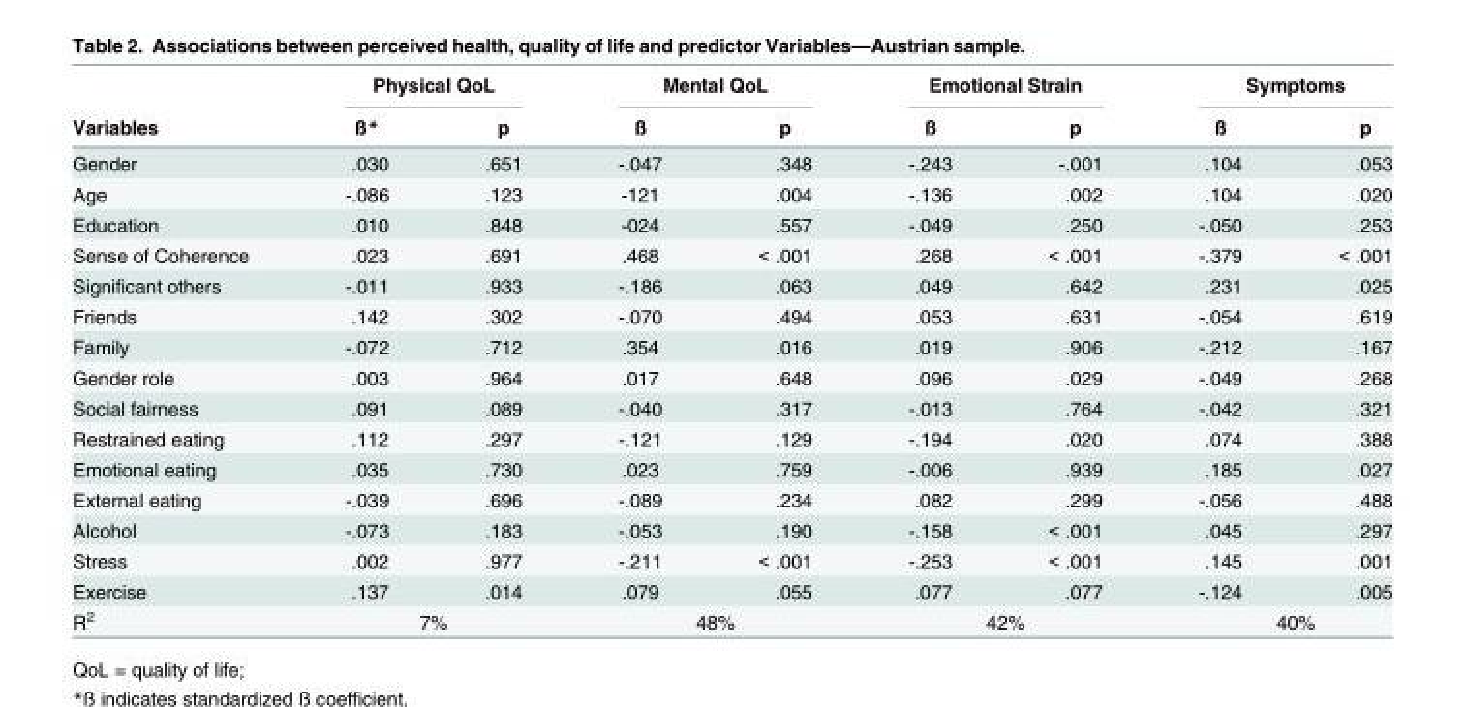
<table><thead><tr><td rowspan="2">Variables</td><td colspan="2">Physical QoL</td><td colspan="2">Mental QoL</td><td colspan="2">Emotional Strain</td><td colspan="2">Symptoms</td></tr><tr><td>ß*</td><td>p</td><td>ß</td><td>p</td><td>ß</td><td>p</td><td>ß</td><td>p</td></tr></thead><tbody><tr><td>Gender</td><td>.030</td><td>.651</td><td>-.047</td><td>.348</td><td>-.243</td><td>-.001</td><td>.104</td><td>.053</td></tr><tr><td>Age</td><td>-.086</td><td>.123</td><td>-121</td><td>.004</td><td>-.136</td><td>.002</td><td>.104</td><td>.020</td></tr><tr><td>Education</td><td>.010</td><td>.848</td><td>-024</td><td>.557</td><td>-.049</td><td>.250</td><td>-.050</td><td>.253</td></tr><tr><td>Sense of Coherence</td><td>.023</td><td>.691</td><td>.468</td><td>&lt; .001</td><td>.268</td><td>&lt; .001</td><td>-.379</td><td>&lt; .001</td></tr><tr><td>Significant others</td><td>-.011</td><td>.933</td><td>-.186</td><td>.063</td><td>.049</td><td>.642</td><td>.231</td><td>.025</td></tr><tr><td>Friends</td><td>.142</td><td>.302</td><td>-.070</td><td>.494</td><td>.053</td><td>.631</td><td>-.054</td><td>.619</td></tr><tr><td>Family</td><td>-.072</td><td>.712</td><td>.354</td><td>.016</td><td>.019</td><td>.906</td><td>-.212</td><td>.167</td></tr><tr><td>Gender role</td><td>.003</td><td>.964</td><td>.017</td><td>.648</td><td>.096</td><td>.029</td><td>-.049</td><td>.268</td></tr><tr><td>Social fairness</td><td>.091</td><td>.089</td><td>-.040</td><td>.317</td><td>-.013</td><td>.764</td><td>-.042</td><td>.321</td></tr><tr><td>Restrained eating</td><td>.112</td><td>.297</td><td>-.121</td><td>.129</td><td>-.194</td><td>.020</td><td>.074</td><td>.388</td></tr><tr><td>Emotional eating</td><td>.035</td><td>.730</td><td>.023</td><td>.759</td><td>-.006</td><td>.939</td><td>.185</td><td>.027</td></tr><tr><td>External eating</td><td>-.039</td><td>.696</td><td>-.089</td><td>.234</td><td>.082</td><td>.299</td><td>-.056</td><td>.488</td></tr><tr><td>Alcohol</td><td>-.073</td><td>.183</td><td>-.053</td><td>.190</td><td>-.158</td><td>&lt; .001</td><td>.045</td><td>.297</td></tr><tr><td>Stress</td><td>.002</td><td>.977</td><td>-.211</td><td>&lt; .001</td><td>-.253</td><td>&lt; .001</td><td>.145</td><td>.001</td></tr><tr><td>Exercise</td><td>.137</td><td>.014</td><td>.079</td><td>.055</td><td>.077</td><td>.077</td><td>-.124</td><td>.005</td></tr><tr><td>R<sup>2</sup></td><td colspan="2">7%</td><td colspan="2">48%</td><td colspan="2">42%</td><td colspan="2">40%</td></tr></tbody></table>